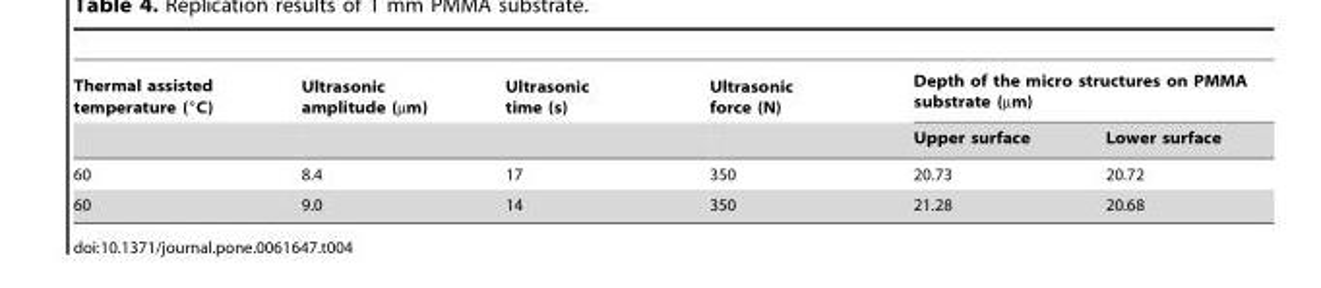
<table><thead><tr><td rowspan="2">Thermal assisted temperature (°C)</td><td rowspan="2">Ultrasonic amplitude (µm)</td><td rowspan="2">Ultrasonic time (s)</td><td rowspan="2">Ultrasonic force (N)</td><td colspan="2">Depth of the micro structures on PMMA substrate (µm)</td></tr><tr><td>Upper surface</td><td>Lower surface</td></tr></thead><tbody><tr><td>60</td><td>8.4</td><td>17</td><td>350</td><td>20.73</td><td>20.72</td></tr><tr><td>60</td><td>9.0</td><td>14</td><td>350</td><td>21.28</td><td>20.68</td></tr></tbody></table>